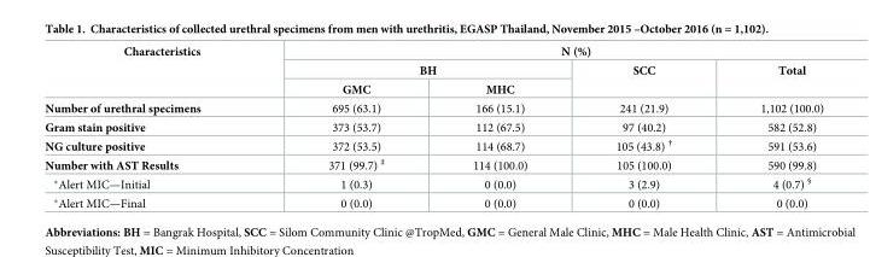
<table><thead><tr><td rowspan="3">Characteristics</td><td colspan="4">N (%)</td></tr><tr><td colspan="2">BH</td><td rowspan="2">SCC</td><td rowspan="2">Total</td></tr><tr><td>GMC</td><td>MHC</td></tr></thead><tbody><tr><td>Number of urethral specimens</td><td>695 (63.1)</td><td>166 (15.1)</td><td>241 (21.9)</td><td>1,102 (100.0)</td></tr><tr><td>Gram stain positive</td><td>373 (53.7)</td><td>112 (67.5)</td><td>97 (40.2)</td><td>582 (52.8)</td></tr><tr><td>NG culture positive</td><td>372 (53.5)</td><td>114 (68.7)</td><td>105 (43.8) <sup>†</sup></td><td>591 (53.6)</td></tr><tr><td>Number with AST Results</td><td>371 (99.7) <sup>‡</sup></td><td>114 (100.0)</td><td>105 (100.0)</td><td>590 (99.8)</td></tr><tr><td>*Alert MIC—Initial</td><td>1 (0.3)</td><td>0 (0.0)</td><td>3 (2.9)</td><td>4 (0.7) <sup>§</sup></td></tr><tr><td>*Alert MIC—Final</td><td>0 (0.0)</td><td>0 (0.0)</td><td>0 (0.0)</td><td>0 (0.0)</td></tr></tbody></table>